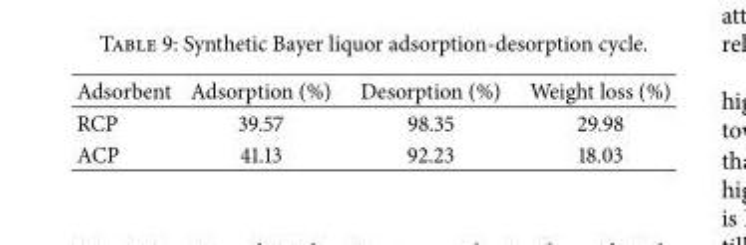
<table><thead><tr><td>Adsorbent</td><td>Adsorption (%)</td><td>Desorption (%)</td><td>Weight loss (%)</td></tr></thead><tbody><tr><td>RCP</td><td>39.57</td><td>98.35</td><td>29.98</td></tr><tr><td>ACP</td><td>41.13</td><td>92.23</td><td>18.03</td></tr></tbody></table>